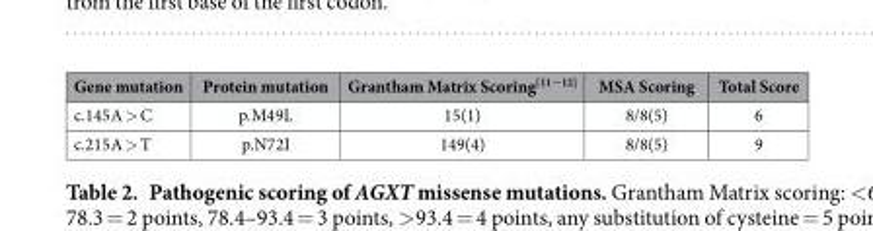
<table><thead><tr><td>Gene mutation</td><td>Protein mutation</td><td>Grantham Matrix Scoring<sup>[11−12]</sup></td><td>MSA Scoring</td><td>Total Score</td></tr></thead><tbody><tr><td>c.145A &gt; C</td><td>p.M49L</td><td>15(1)</td><td>8/8(5)</td><td>6</td></tr><tr><td>c.215A &gt; T</td><td>p.N72I</td><td>149(4)</td><td>8/8(5)</td><td>9</td></tr></tbody></table>